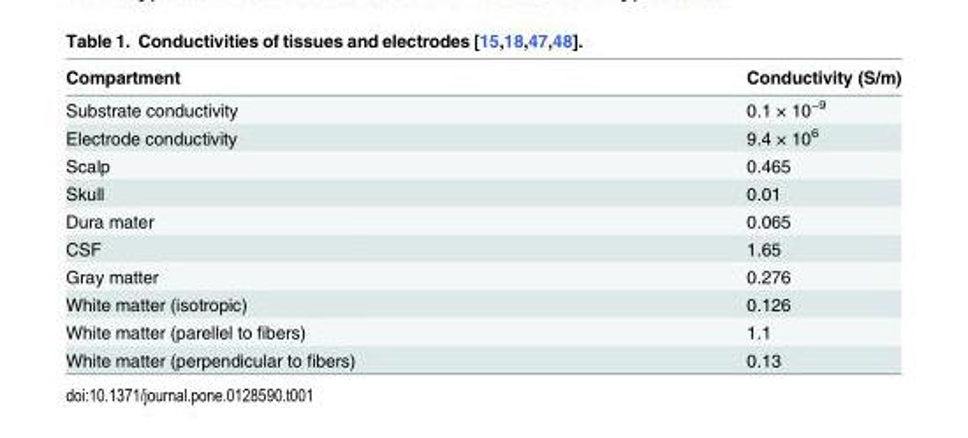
<table><thead><tr><td>Compartment</td><td>Conductivity (S/m)</td></tr></thead><tbody><tr><td>Substrate conductivity</td><td>0.1 × 10<sup>−9</sup></td></tr><tr><td>Electrode conductivity</td><td>9.4 × 10<sup>6</sup></td></tr><tr><td>Scalp</td><td>0.465</td></tr><tr><td>Skull</td><td>0.01</td></tr><tr><td>Dura mater</td><td>0.065</td></tr><tr><td>CSF</td><td>1.65</td></tr><tr><td>Gray matter</td><td>0.276</td></tr><tr><td>White matter (isotropic)</td><td>0.126</td></tr><tr><td>White matter (parellel to fibers)</td><td>1.1</td></tr><tr><td>White matter (perpendicular to fibers)</td><td>0.13</td></tr></tbody></table>